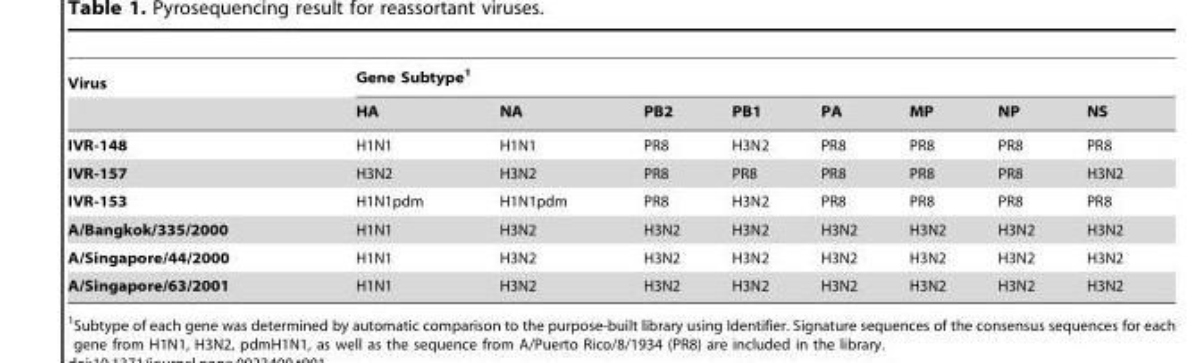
<table><thead><tr><td rowspan="2">Virus</td><td colspan="8">Gene Subtype<sup>1</sup></td></tr><tr><td>HA</td><td>NA</td><td>PB2</td><td>PB1</td><td>PA</td><td>MP</td><td>NP</td><td>NS</td></tr></thead><tbody><tr><td>IVR-148</td><td>H1N1</td><td>H1N1</td><td>PR8</td><td>H3N2</td><td>PR8</td><td>PR8</td><td>PR8</td><td>PR8</td></tr><tr><td>IVR-157</td><td>H3N2</td><td>H3N2</td><td>PR8</td><td>PR8</td><td>PR8</td><td>PR8</td><td>PR8</td><td>H3N2</td></tr><tr><td>IVR-153</td><td>H1N1pdm</td><td>H1N1pdm</td><td>PR8</td><td>H3N2</td><td>PR8</td><td>PR8</td><td>PR8</td><td>PR8</td></tr><tr><td>A/Bangkok/335/2000</td><td>H1N1</td><td>H3N2</td><td>H3N2</td><td>H3N2</td><td>H3N2</td><td>H3N2</td><td>H3N2</td><td>H3N2</td></tr><tr><td>A/Singapore/44/2000</td><td>H1N1</td><td>H3N2</td><td>H3N2</td><td>H3N2</td><td>H3N2</td><td>H3N2</td><td>H3N2</td><td>H3N2</td></tr><tr><td>A/Singapore/63/2001</td><td>H1N1</td><td>H3N2</td><td>H3N2</td><td>H3N2</td><td>H3N2</td><td>H3N2</td><td>H3N2</td><td>H3N2</td></tr></tbody></table>